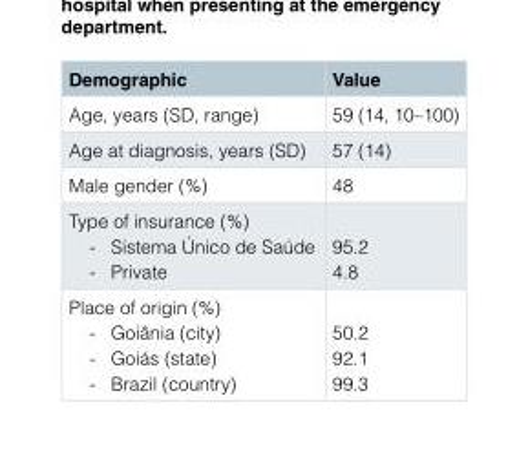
<table><thead><tr><td>Demographic</td><td>Value</td></tr></thead><tbody><tr><td>Age, years (SD, range)</td><td>59 (14, 10–100)</td></tr><tr><td>Age at diagnosis, years (SD)</td><td>57 (14)</td></tr><tr><td>Male gender (%)</td><td>48</td></tr><tr><td>Type of insurance (%) - Sistema Único de Saúde - Private</td><td>95.2 4.8</td></tr><tr><td>Place of origin (%) - Goiânia (city) - Goiás (state) - Brazil (country)</td><td>50.2 92.1 99.3</td></tr></tbody></table>